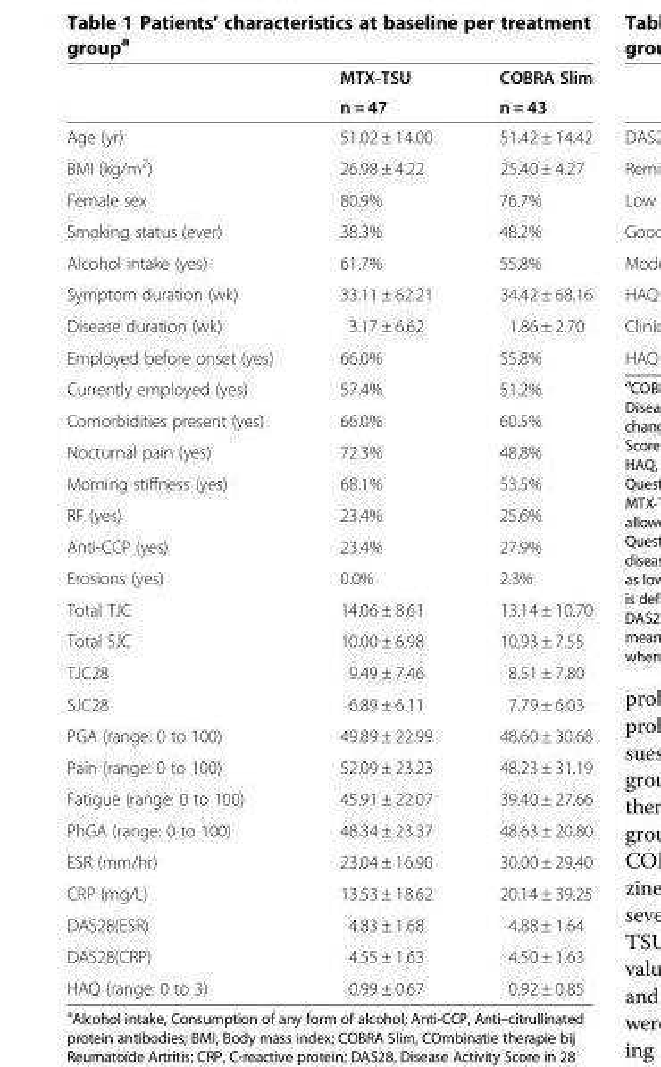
<table><thead><tr><td rowspan="2"></td><td rowspan="2">MTX-TSU n = 47</td><td rowspan="2">COBRA Slim n = 43</td></tr><tr></tr></thead><tbody><tr><td>Age (yr)</td><td>51.02 ± 14.00</td><td>51.42 ± 14.42</td></tr><tr><td>BMI (kg/m<sup>2</sup>)</td><td>26.98 ± 4.22</td><td>25.40 ± 4.27</td></tr><tr><td>Female sex</td><td>80.9%</td><td>76.7%</td></tr><tr><td>Smoking status (ever)</td><td>38.3%</td><td>48.2%</td></tr><tr><td>Alcohol intake (yes)</td><td>61.7%</td><td>55.8%</td></tr><tr><td>Symptom duration (wk)</td><td>33.11 ± 62.21</td><td>34.42 ± 68.16</td></tr><tr><td>Disease duration (wk)</td><td>3.17 ± 6.62</td><td>1.86 ± 2.70</td></tr><tr><td>Employed before onset (yes)</td><td>66.0%</td><td>55.8%</td></tr><tr><td>Currently employed (yes)</td><td>57.4%</td><td>51.2%</td></tr><tr><td>Comorbidities present (yes)</td><td>66.0%</td><td>60.5%</td></tr><tr><td>Nocturnal pain (yes)</td><td>72.3%</td><td>48.8%</td></tr><tr><td>Morning stiffness (yes)</td><td>68.1%</td><td>53.5%</td></tr><tr><td>RF (yes)</td><td>23.4%</td><td>25.6%</td></tr><tr><td>Anti-CCP (yes)</td><td>23.4%</td><td>27.9%</td></tr><tr><td>Erosions (yes)</td><td>0.0%</td><td>2.3%</td></tr><tr><td>Total TJC</td><td>14.06 ± 8.61</td><td>13.14 ± 10.70</td></tr><tr><td>Total SJC</td><td>10.00 ± 6.98</td><td>10.93 ± 7.55</td></tr><tr><td>TJC28</td><td>9.49 ± 7.46</td><td>8.51 ± 7.80</td></tr><tr><td>SJC28</td><td>6.89 ± 6.11</td><td>7.79 ± 6.03</td></tr><tr><td>PGA (range: 0 to 100)</td><td>49.89 ± 22.99</td><td>48.60 ± 30.68</td></tr><tr><td>Pain (range: 0 to 100)</td><td>52.09 ± 23.23</td><td>48.23 ± 31.19</td></tr><tr><td>Fatigue (range: 0 to 100)</td><td>45.91 ± 22.07</td><td>39.40 ± 27.66</td></tr><tr><td>PhGA (range: 0 to 100)</td><td>48.34 ± 23.37</td><td>48.63 ± 20.80</td></tr><tr><td>ESR (mm/hr)</td><td>23.04 ± 16.90</td><td>30.00 ± 29.40</td></tr><tr><td>CRP (mg/L)</td><td>13.53 ± 18.62</td><td>20.14 ± 39.25</td></tr><tr><td>DAS28(ESR)</td><td>4.83 ± 1.68</td><td>4.88 ± 1.64</td></tr><tr><td>DAS28(CRP)</td><td>4.55 ± 1.63</td><td>4.50 ± 1.63</td></tr><tr><td>HAQ (range: 0 to 3)</td><td>0.99 ± 0.67</td><td>0.92 ± 0.85</td></tr></tbody></table>